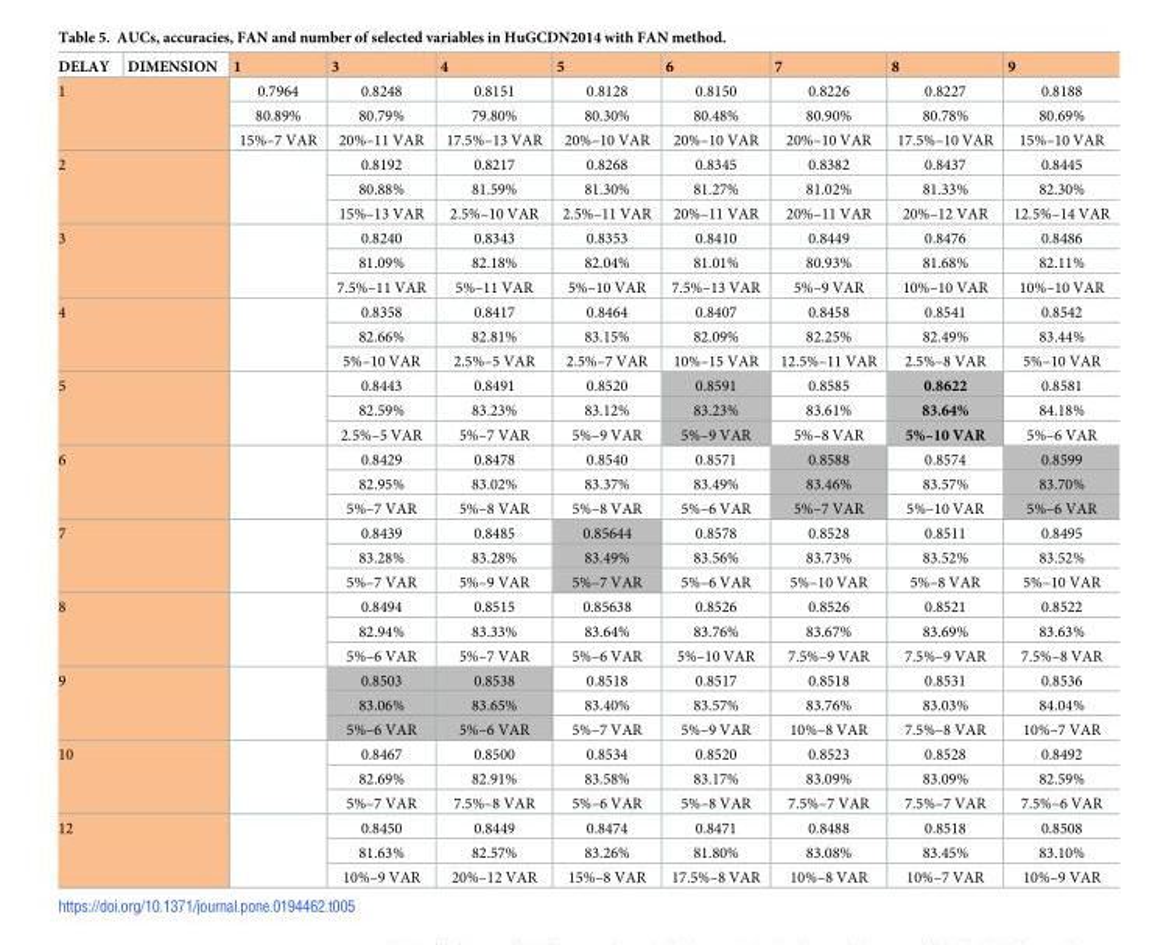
<table><thead><tr><td>DELAY</td><td>DIMENSION</td><td>1</td><td>3</td><td>4</td><td>5</td><td>6</td><td>7</td><td>8</td><td>9</td></tr></thead><tbody><tr><td rowspan="3" colspan="2">1</td><td>0.7964</td><td>0.8248</td><td>0.8151</td><td>0.8128</td><td>0.8150</td><td>0.8226</td><td>0.8227</td><td>0.8188</td></tr><tr><td>80.89%</td><td>80.79%</td><td>79.80%</td><td>80.30%</td><td>80.48%</td><td>80.90%</td><td>80.78%</td><td>80.69%</td></tr><tr><td>15%–7 VAR</td><td>20%–11 VAR</td><td>17.5%–13 VAR</td><td>20%–10 VAR</td><td>20%–10 VAR</td><td>20%–10 VAR</td><td>17.5%–10 VAR</td><td>15%–10 VAR</td></tr><tr><td rowspan="3" colspan="2">2</td><td rowspan="3"></td><td>0.8192</td><td>0.8217</td><td>0.8268</td><td>0.8345</td><td>0.8382</td><td>0.8437</td><td>0.8445</td></tr><tr><td>80.88%</td><td>81.59%</td><td>81.30%</td><td>81.27%</td><td>81.02%</td><td>81.33%</td><td>82.30%</td></tr><tr><td>15%–13 VAR</td><td>2.5%–10 VAR</td><td>2.5%–11 VAR</td><td>20%–11 VAR</td><td>20%–11 VAR</td><td>20%–12 VAR</td><td>12.5%–14 VAR</td></tr><tr><td rowspan="3" colspan="2">3</td><td rowspan="3"></td><td>0.8240</td><td>0.8343</td><td>0.8353</td><td>0.8410</td><td>0.8449</td><td>0.8476</td><td>0.8486</td></tr><tr><td>81.09%</td><td>82.18%</td><td>82.04%</td><td>81.01%</td><td>80.93%</td><td>81.68%</td><td>82.11%</td></tr><tr><td>7.5%–11 VAR</td><td>5%–11 VAR</td><td>5%–10 VAR</td><td>7.5%–13 VAR</td><td>5%–9 VAR</td><td>10%–10 VAR</td><td>10%–10 VAR</td></tr><tr><td rowspan="3" colspan="2">4</td><td rowspan="3"></td><td>0.8358</td><td>0.8417</td><td>0.8464</td><td>0.8407</td><td>0.8458</td><td>0.8541</td><td>0.8542</td></tr><tr><td>82.66%</td><td>82.81%</td><td>83.15%</td><td>82.09%</td><td>82.25%</td><td>82.49%</td><td>83.44%</td></tr><tr><td>5%–10 VAR</td><td>2.5%–5 VAR</td><td>2.5%–7 VAR</td><td>10%–15 VAR</td><td>12.5%–11 VAR</td><td>2.5%–8 VAR</td><td>5%–10 VAR</td></tr><tr><td rowspan="3" colspan="2">5</td><td rowspan="3"></td><td>0.8443</td><td>0.8491</td><td>0.8520</td><td>0.8591</td><td>0.8585</td><td>0.8622</td><td>0.8581</td></tr><tr><td>82.59%</td><td>83.23%</td><td>83.12%</td><td>83.23%</td><td>83.61%</td><td>83.64%</td><td>84.18%</td></tr><tr><td>2.5%–5 VAR</td><td>5%–7 VAR</td><td>5%–9 VAR</td><td>5%–9 VAR</td><td>5%–8 VAR</td><td>5%–10 VAR</td><td>5%–6 VAR</td></tr><tr><td rowspan="3" colspan="2">6</td><td rowspan="3"></td><td>0.8429</td><td>0.8478</td><td>0.8540</td><td>0.8571</td><td>0.8588</td><td>0.8574</td><td>0.8599</td></tr><tr><td>82.95%</td><td>83.02%</td><td>83.37%</td><td>83.49%</td><td>83.46%</td><td>83.57%</td><td>83.70%</td></tr><tr><td>5%–7 VAR</td><td>5%–8 VAR</td><td>5%–8 VAR</td><td>5%–6 VAR</td><td>5%–7 VAR</td><td>5%–10 VAR</td><td>5%–6 VAR</td></tr><tr><td rowspan="3" colspan="2">7</td><td rowspan="3"></td><td>0.8439</td><td>0.8485</td><td>0.85644</td><td>0.8578</td><td>0.8528</td><td>0.8511</td><td>0.8495</td></tr><tr><td>83.28%</td><td>83.28%</td><td>83.49%</td><td>83.56%</td><td>83.73%</td><td>83.52%</td><td>83.52%</td></tr><tr><td>5%–7 VAR</td><td>5%–9 VAR</td><td>5%–7 VAR</td><td>5%–6 VAR</td><td>5%–10 VAR</td><td>5%–8 VAR</td><td>5%–10 VAR</td></tr><tr><td rowspan="3" colspan="2">8</td><td rowspan="3"></td><td>0.8494</td><td>0.8515</td><td>0.85638</td><td>0.8526</td><td>0.8526</td><td>0.8521</td><td>0.8522</td></tr><tr><td>82.94%</td><td>83.33%</td><td>83.64%</td><td>83.76%</td><td>83.67%</td><td>83.69%</td><td>83.63%</td></tr><tr><td>5%–6 VAR</td><td>5%–7 VAR</td><td>5%–6 VAR</td><td>5%–10 VAR</td><td>7.5%–9 VAR</td><td>7.5%–9 VAR</td><td>7.5%–8 VAR</td></tr><tr><td rowspan="3" colspan="2">9</td><td rowspan="3"></td><td>0.8503</td><td>0.8538</td><td>0.8518</td><td>0.8517</td><td>0.8518</td><td>0.8531</td><td>0.8536</td></tr><tr><td>83.06%</td><td>83.65%</td><td>83.40%</td><td>83.57%</td><td>83.76%</td><td>83.03%</td><td>84.04%</td></tr><tr><td>5%–6 VAR</td><td>5%–6 VAR</td><td>5%–7 VAR</td><td>5%–9 VAR</td><td>10%–8 VAR</td><td>7.5%–8 VAR</td><td>10%–7 VAR</td></tr><tr><td rowspan="3" colspan="2">10</td><td rowspan="3"></td><td>0.8467</td><td>0.8500</td><td>0.8534</td><td>0.8520</td><td>0.8523</td><td>0.8528</td><td>0.8492</td></tr><tr><td>82.69%</td><td>82.91%</td><td>83.58%</td><td>83.17%</td><td>83.09%</td><td>83.09%</td><td>82.59%</td></tr><tr><td>5%–7 VAR</td><td>7.5%–8 VAR</td><td>5%–6 VAR</td><td>5%–8 VAR</td><td>7.5%–7 VAR</td><td>7.5%–7 VAR</td><td>7.5%–6 VAR</td></tr><tr><td rowspan="3" colspan="2">12</td><td rowspan="3"></td><td>0.8450</td><td>0.8449</td><td>0.8474</td><td>0.8471</td><td>0.8488</td><td>0.8518</td><td>0.8508</td></tr><tr><td>81.63%</td><td>82.57%</td><td>83.26%</td><td>81.80%</td><td>83.08%</td><td>83.45%</td><td>83.10%</td></tr><tr><td>10%–9 VAR</td><td>20%–12 VAR</td><td>15%–8 VAR</td><td>17.5%–8 VAR</td><td>10%–8 VAR</td><td>10%–7 VAR</td><td>10%–9 VAR</td></tr></tbody></table>